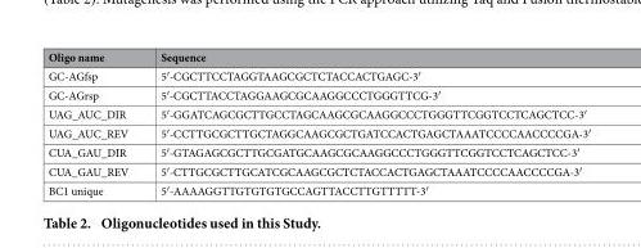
<table><thead><tr><td>Oligo name</td><td>Sequence</td></tr></thead><tbody><tr><td>GC-AGfsp</td><td>5′ -CGCTTCCTAGGTAAGCGCTCTACCACTGAGC-3′</td></tr><tr><td>GC-AGrsp</td><td>5′ -CGCTTACCTAGGAAGCGCAAGGCCCTGGGTTCG-3′</td></tr><tr><td>UAG_AUC_DIR</td><td>5′ -GGATCAGCGCTTGCCTAGCAAGCGCAAGGCCCTGGGTTCGGTCCTCAGCTCC-3′</td></tr><tr><td>UAG_AUC_REV</td><td>5′ -CCTTGCGCTTGCTAGGCAAGCGCTGATCCACTGAGCTAAATCCCCAACCCCGA-3′</td></tr><tr><td>CUA_GAU_DIR</td><td>5′ -GTAGAGCGCTTGCGATGCAAGCGCAAGGCCCTGGGTTCGGTCCTCAGCTCC-3′</td></tr><tr><td>CUA_GAU_REV</td><td>5′ -CTTGCGCTTGCATCGCAAGCGCTCTACCACTGAGCTAAATCCCCAACCCCGA-3′</td></tr><tr><td>BC1 unique</td><td>5′ -AAAAGGTTGTGTGTGCCAGTTACCTTGTTTTT-3′</td></tr></tbody></table>